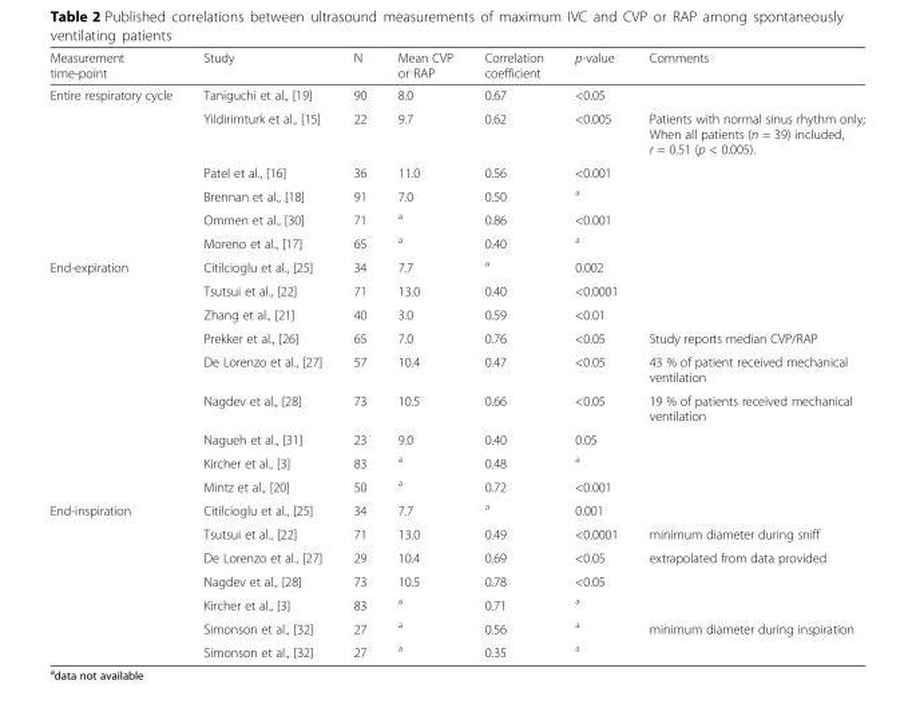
<table><thead><tr><td>Measurement time-point</td><td>Study</td><td>N</td><td>Mean CVP or RAP</td><td>Correlation coefficient</td><td>p-value</td><td>Comments</td></tr></thead><tbody><tr><td rowspan="6">Entire respiratory cycle</td><td>Taniguchi et al., [19]</td><td>90</td><td>8.0</td><td>0.67</td><td>&lt;0.05</td><td></td></tr><tr><td>Yildirimturk et al., [15]</td><td>22</td><td>9.7</td><td>0.62</td><td>&lt;0.005</td><td>Patients with normal sinus rhythm only; When all patients (n = 39) included, r = 0.51 (p &lt; 0.005).</td></tr><tr><td>Patel et al., [16]</td><td>36</td><td>11.0</td><td>0.56</td><td>&lt;0.001</td><td></td></tr><tr><td>Brennan et al., [18]</td><td>91</td><td>7.0</td><td>0.50</td><td><sup>a</sup></td><td></td></tr><tr><td>Ommen et al., [30]</td><td>71</td><td><sup>a</sup></td><td>0.86</td><td>&lt;0.001</td><td></td></tr><tr><td>Moreno et al., [17]</td><td>65</td><td><sup>a</sup></td><td>0.40</td><td><sup>a</sup></td><td></td></tr><tr><td rowspan="9">End-expiration</td><td>Citilcioglu et al., [25]</td><td>34</td><td>7.7</td><td><sup>a</sup></td><td>0.002</td><td></td></tr><tr><td>Tsutsui et al., [22]</td><td>71</td><td>13.0</td><td>0.40</td><td>&lt;0.0001</td><td></td></tr><tr><td>Zhang et al., [21]</td><td>40</td><td>3.0</td><td>0.59</td><td>&lt;0.01</td><td></td></tr><tr><td>Prekker et al., [26]</td><td>65</td><td>7.0</td><td>0.76</td><td>&lt;0.05</td><td>Study reports median CVP/RAP</td></tr><tr><td>De Lorenzo et al., [27]</td><td>57</td><td>10.4</td><td>0.47</td><td>&lt;0.05</td><td>43 % of patient received mechanical ventilation</td></tr><tr><td>Nagdev et al., [28]</td><td>73</td><td>10.5</td><td>0.66</td><td>&lt;0.05</td><td>19 % of patients received mechanical ventilation</td></tr><tr><td>Nagueh et al., [31]</td><td>23</td><td>9.0</td><td>0.40</td><td>0.05</td><td></td></tr><tr><td>Kircher et al., [3]</td><td>83</td><td><sup>a</sup></td><td>0.48</td><td><sup>a</sup></td><td></td></tr><tr><td>Mintz et al., [20]</td><td>50</td><td><sup>a</sup></td><td>0.72</td><td>&lt;0.001</td><td></td></tr><tr><td rowspan="7">End-inspiration</td><td>Citilcioglu et al., [25]</td><td>34</td><td>7.7</td><td><sup>a</sup></td><td>0.001</td><td></td></tr><tr><td>Tsutsui et al., [22]</td><td>71</td><td>13.0</td><td>0.49</td><td>&lt;0.0001</td><td>minimum diameter during sniff</td></tr><tr><td>De Lorenzo et al., [27]</td><td>29</td><td>10.4</td><td>0.69</td><td>&lt;0.05</td><td>extrapolated from data provided</td></tr><tr><td>Nagdev et al., [28]</td><td>73</td><td>10.5</td><td>0.78</td><td>&lt;0.05</td><td></td></tr><tr><td>Kircher et al., [3]</td><td>83</td><td><sup>a</sup></td><td>0.71</td><td><sup>a</sup></td><td></td></tr><tr><td>Simonson et al., [32]</td><td>27</td><td><sup>a</sup></td><td>0.56</td><td><sup>a</sup></td><td>minimum diameter during inspiration</td></tr><tr><td>Simonson et al., [32]</td><td>27</td><td><sup>a</sup></td><td>0.35</td><td><sup>a</sup></td><td></td></tr></tbody></table>